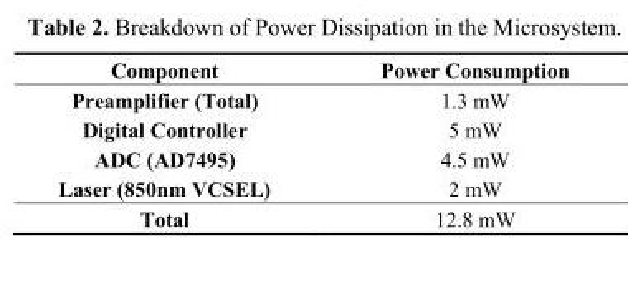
<table><thead><tr><td>Component</td><td>Power Consumption</td></tr></thead><tbody><tr><td>Preamplifier (Total)</td><td>1.3 mW</td></tr><tr><td>Digital Controller</td><td>5 mW</td></tr><tr><td>ADC (AD7495)</td><td>4.5 mW</td></tr><tr><td>Laser (850nm VCSEL)</td><td>2 mW</td></tr><tr><td>Total</td><td>12.8 mW</td></tr></tbody></table>